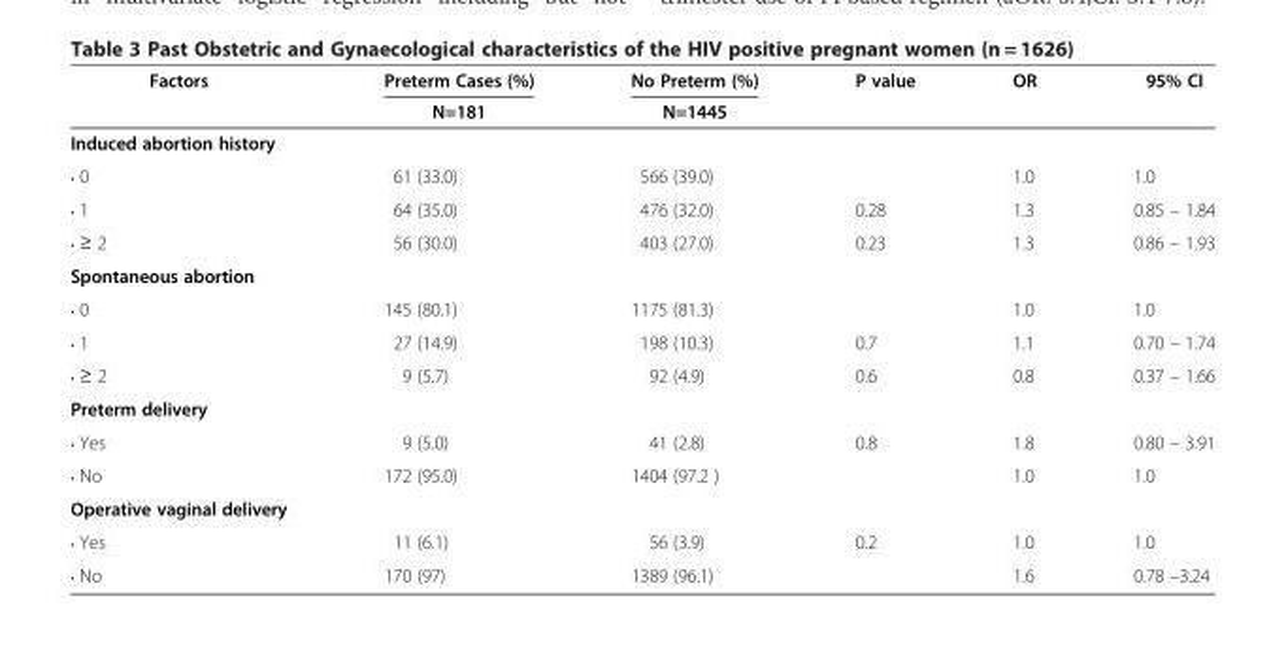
<table><thead><tr><td rowspan="2">Factors</td><td rowspan="2">Preterm Cases (%) N=181</td><td rowspan="2">No Preterm (%) N=1445</td><td rowspan="2">P value</td><td rowspan="2">OR</td><td rowspan="2">95% CI</td></tr><tr></tr></thead><tbody><tr><td colspan="6">Induced abortion history</td></tr><tr><td>• 0</td><td>61 (33.0)</td><td>566 (39.0)</td><td></td><td>1.0</td><td>1.0</td></tr><tr><td>• 1</td><td>64 (35.0)</td><td>476 (32.0)</td><td>0.28</td><td>1.3</td><td>0.85 – 1.84</td></tr><tr><td>• ≥ 2</td><td>56 (30.0)</td><td>403 (27.0)</td><td>0.23</td><td>1.3</td><td>0.86 – 1.93</td></tr><tr><td colspan="6">Spontaneous abortion</td></tr><tr><td>• 0</td><td>145 (80.1)</td><td>1175 (81.3)</td><td></td><td>1.0</td><td>1.0</td></tr><tr><td>• 1</td><td>27 (14.9)</td><td>198 (10.3)</td><td>0.7</td><td>1.1</td><td>0.70 – 1.74</td></tr><tr><td>• ≥ 2</td><td>9 (5.7)</td><td>92 (4.9)</td><td>0.6</td><td>0.8</td><td>0.37 – 1.66</td></tr><tr><td colspan="6">Preterm delivery</td></tr><tr><td>• Yes</td><td>9 (5.0)</td><td>41 (2.8)</td><td>0.8</td><td>1.8</td><td>0.80 – 3.91</td></tr><tr><td>• No</td><td>172 (95.0)</td><td>1404 (97.2 )</td><td></td><td>1.0</td><td>1.0</td></tr><tr><td colspan="6">Operative vaginal delivery</td></tr><tr><td>• Yes</td><td>11 (6.1)</td><td>56 (3.9)</td><td>0.2</td><td>1.0</td><td>1.0</td></tr><tr><td>• No</td><td>170 (97)</td><td>1389 (96.1)</td><td></td><td>1.6</td><td>0.78 –3.24</td></tr></tbody></table>